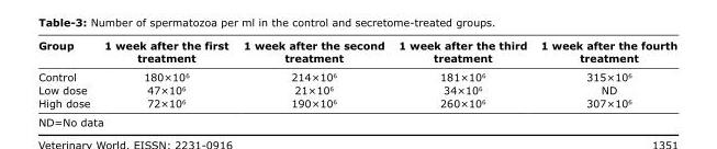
<table><thead><tr><td>Group</td><td>1 week after the first treatment</td><td>1 week after the second treatment</td><td>1 week after the third treatment</td><td>1 week after the fourth treatment</td></tr></thead><tbody><tr><td>Control</td><td>180×10<sup>6</sup></td><td>214×10<sup>6</sup></td><td>181×10<sup>6</sup></td><td>315×10<sup>6</sup></td></tr><tr><td>Low dose</td><td>47×10<sup>6</sup></td><td>21×10<sup>6</sup></td><td>34×10<sup>6</sup></td><td>ND</td></tr><tr><td>High dose</td><td>72×10<sup>6</sup></td><td>190×10<sup>6</sup></td><td>260×10<sup>6</sup></td><td>307×10<sup>6</sup></td></tr></tbody></table>